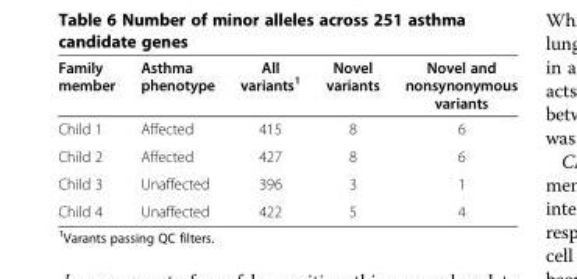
<table><thead><tr><td>Family member</td><td>Asthma phenotype</td><td>All variants<sup>1</sup></td><td>Novel variants</td><td>Novel and nonsynonymous variants</td></tr></thead><tbody><tr><td>Child 1</td><td>Affected</td><td>415</td><td>8</td><td>6</td></tr><tr><td>Child 2</td><td>Affected</td><td>427</td><td>8</td><td>6</td></tr><tr><td>Child 3</td><td>Unaffected</td><td>396</td><td>3</td><td>1</td></tr><tr><td>Child 4</td><td>Unaffected</td><td>422</td><td>5</td><td>4</td></tr></tbody></table>